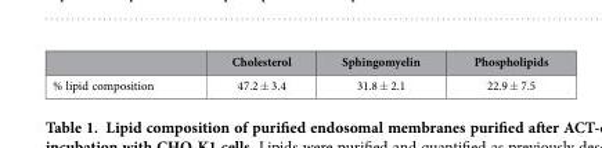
<table><thead><tr><td></td><td>Cholesterol</td><td>Sphingomyelin</td><td>Phospholipids</td></tr></thead><tbody><tr><td>% lipid composition</td><td>47.2 ± 3.4</td><td>31.8 ± 2.1</td><td>22.9 ± 7.5</td></tr></tbody></table>